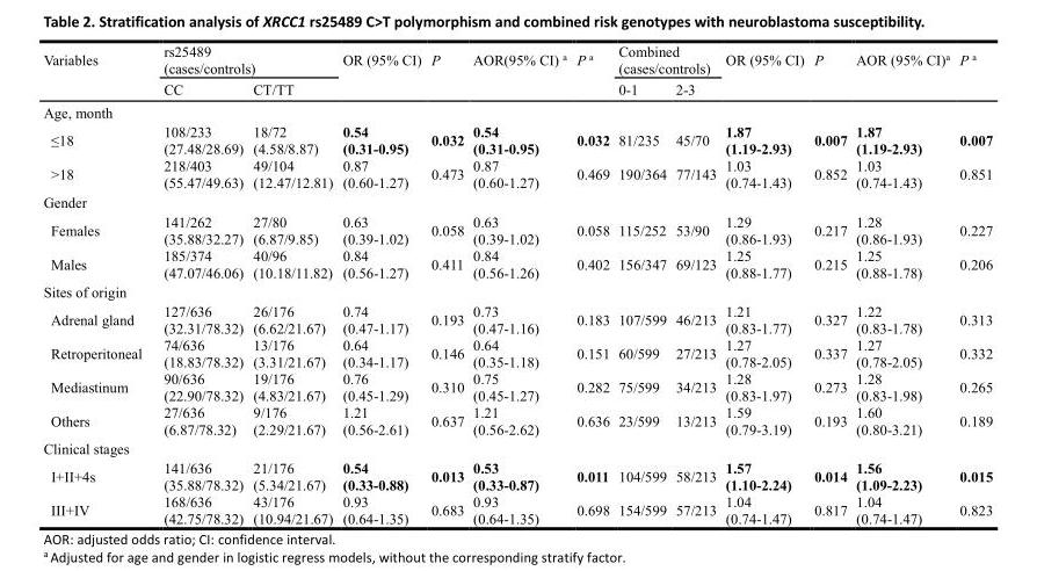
<table><tbody><tr><td rowspan="2">Variables</td><td colspan="2">rs25489 (cases/controls)</td><td>OR (95% CI)</td><td>P</td><td>AOR(95% CI) <sup>a</sup></td><td>P <sup>a</sup></td><td colspan="2">Combined (cases/controls)</td><td>OR (95% CI)</td><td>P</td><td>AOR (95% CI)<sup>a</sup></td><td>P <sup>a</sup></td></tr><tr><td>CC</td><td>CT/TT</td><td></td><td></td><td></td><td></td><td>0-1</td><td>2-3</td><td></td><td></td><td></td><td></td></tr><tr><td colspan="13">Age, month</td></tr><tr><td>≤18</td><td>108/233 (27.48/28.69)</td><td>18/72 (4.58/8.87)</td><td>0.54 (0.31-0.95)</td><td>0.032</td><td>0.54 (0.31-0.95)</td><td>0.032</td><td>81/235</td><td>45/70</td><td>1.87 (1.19-2.93)</td><td>0.007</td><td>1.87 (1.19-2.93)</td><td>0.007</td></tr><tr><td>&gt;18</td><td>218/403 (55.47/49.63)</td><td>49/104 (12.47/12.81)</td><td>0.87 (0.60-1.27)</td><td>0.473</td><td>0.87 (0.60-1.27)</td><td>0.469</td><td>190/364</td><td>77/143</td><td>1.03 (0.74-1.43)</td><td>0.852</td><td>1.03 (0.74-1.43)</td><td>0.851</td></tr><tr><td colspan="13">Gender</td></tr><tr><td>Females</td><td>141/262 (35.88/32.27)</td><td>27/80 (6.87/9.85)</td><td>0.63 (0.39-1.02)</td><td>0.058</td><td>0.63 (0.39-1.02)</td><td>0.058</td><td>115/252</td><td>53/90</td><td>1.29 (0.86-1.93)</td><td>0.217</td><td>1.28 (0.86-1.93)</td><td>0.227</td></tr><tr><td>Males</td><td>185/374 (47.07/46.06)</td><td>40/96 (10.18/11.82)</td><td>0.84 (0.56-1.27)</td><td>0.411</td><td>0.84 (0.56-1.26)</td><td>0.402</td><td>156/347</td><td>69/123</td><td>1.25 (0.88-1.77)</td><td>0.215</td><td>1.25 (0.88-1.78)</td><td>0.206</td></tr><tr><td colspan="13">Sites of origin</td></tr><tr><td>Adrenal gland</td><td>127/636 (32.31/78.32)</td><td>26/176 (6.62/21.67)</td><td>0.74 (0.47-1.17)</td><td>0.193</td><td>0.73 (0.47-1.16)</td><td>0.183</td><td>107/599</td><td>46/213</td><td>1.21 (0.83-1.77)</td><td>0.327</td><td>1.22 (0.83-1.78)</td><td>0.313</td></tr><tr><td>Retroperitoneal</td><td>74/636 (18.83/78.32)</td><td>13/176 (3.31/21.67)</td><td>0.64 (0.34-1.17)</td><td>0.146</td><td>0.64 (0.35-1.18)</td><td>0.151</td><td>60/599</td><td>27/213</td><td>1.27 (0.78-2.05)</td><td>0.337</td><td>1.27 (0.78-2.05)</td><td>0.332</td></tr><tr><td>Mediastinum</td><td>90/636 (22.90/78.32)</td><td>19/176 (4.83/21.67)</td><td>0.76 (0.45-1.29)</td><td>0.310</td><td>0.75 (0.45-1.27)</td><td>0.282</td><td>75/599</td><td>34/213</td><td>1.28 (0.83-1.97)</td><td>0.273</td><td>1.28 (0.83-1.98)</td><td>0.265</td></tr><tr><td>Others</td><td>27/636 (6.87/78.32)</td><td>9/176 (2.29/21.67)</td><td>1.21 (0.56-2.61)</td><td>0.637</td><td>1.21 (0.56-2.62)</td><td>0.636</td><td>23/599</td><td>13/213</td><td>1.59 (0.79-3.19)</td><td>0.193</td><td>1.60 (0.80-3.21)</td><td>0.189</td></tr><tr><td colspan="13">Clinical stages</td></tr><tr><td>I+II+4s</td><td>141/636 (35.88/78.32)</td><td>21/176 (5.34/21.67)</td><td>0.54 (0.33-0.88)</td><td>0.013</td><td>0.53 (0.33-0.87)</td><td>0.011</td><td>104/599</td><td>58/213</td><td>1.57 (1.10-2.24)</td><td>0.014</td><td>1.56 (1.09-2.23)</td><td>0.015</td></tr><tr><td>III+IV</td><td>168/636 (42.75/78.32)</td><td>43/176 (10.94/21.67)</td><td>0.93 (0.64-1.35)</td><td>0.683</td><td>0.93 (0.64-1.35)</td><td>0.698</td><td>154/599</td><td>57/213</td><td>1.04 (0.74-1.47)</td><td>0.817</td><td>1.04 (0.74-1.47)</td><td>0.823</td></tr></tbody></table>